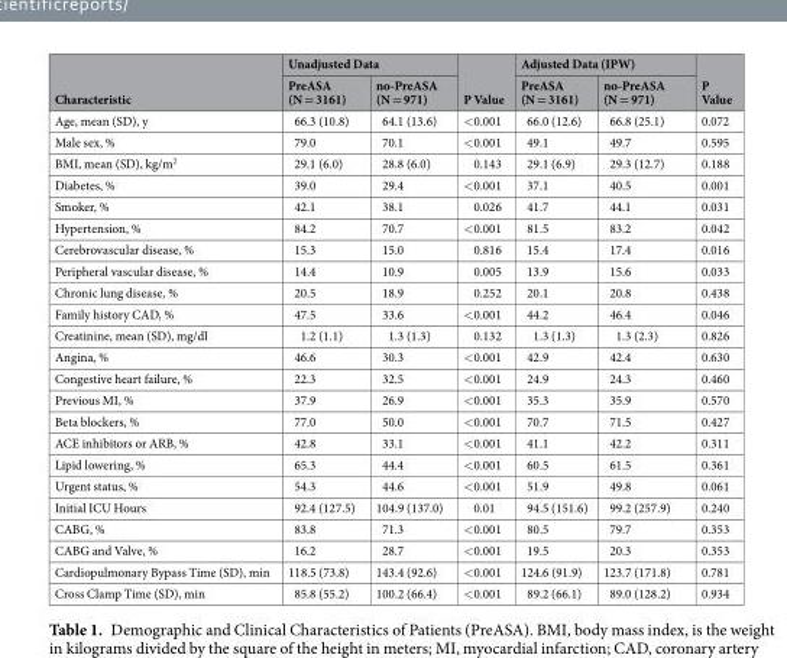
<table><thead><tr><td rowspan="2">Characteristic</td><td colspan="2">Unadjusted Data</td><td rowspan="2">P Value</td><td colspan="2">Adjusted Data (IPW)</td><td rowspan="2">P Value</td></tr><tr><td>PreASA (N = 3161)</td><td>no-PreASA (N = 971)</td><td>PreASA (N = 3161)</td><td>no-PreASA (N = 971)</td></tr></thead><tbody><tr><td>Age, mean (SD), y</td><td>66.3 (10.8)</td><td>64.1 (13.6)</td><td>&lt;0.001</td><td>66.0 (12.6)</td><td>66.8 (25.1)</td><td>0.072</td></tr><tr><td>Male sex, %</td><td>79.0</td><td>70.1</td><td>&lt;0.001</td><td>49.1</td><td>49.7</td><td>0.595</td></tr><tr><td>BMI, mean (SD), kg/m<sup>2</sup></td><td>29.1 (6.0)</td><td>28.8 (6.0)</td><td>0.143</td><td>29.1 (6.9)</td><td>29.3 (12.7)</td><td>0.188</td></tr><tr><td>Diabetes, %</td><td>39.0</td><td>29.4</td><td>&lt;0.001</td><td>37.1</td><td>40.5</td><td>0.001</td></tr><tr><td>Smoker, %</td><td>42.1</td><td>38.1</td><td>0.026</td><td>41.7</td><td>44.1</td><td>0.031</td></tr><tr><td>Hypertension, %</td><td>84.2</td><td>70.7</td><td>&lt;0.001</td><td>81.5</td><td>83.2</td><td>0.042</td></tr><tr><td>Cerebrovascular disease, %</td><td>15.3</td><td>15.0</td><td>0.816</td><td>15.4</td><td>17.4</td><td>0.016</td></tr><tr><td>Peripheral vascular disease, %</td><td>14.4</td><td>10.9</td><td>0.005</td><td>13.9</td><td>15.6</td><td>0.033</td></tr><tr><td>Chronic lung disease, %</td><td>20.5</td><td>18.9</td><td>0.252</td><td>20.1</td><td>20.8</td><td>0.438</td></tr><tr><td>Family history CAD, %</td><td>47.5</td><td>33.6</td><td>&lt;0.001</td><td>44.2</td><td>46.4</td><td>0.046</td></tr><tr><td>Creatinine, mean (SD), mg/dl</td><td>1.2 (1.1)</td><td>1.3 (1.3)</td><td>0.132</td><td>1.3 (1.3)</td><td>1.3 (2.3)</td><td>0.826</td></tr><tr><td>Angina, %</td><td>46.6</td><td>30.3</td><td>&lt;0.001</td><td>42.9</td><td>42.4</td><td>0.630</td></tr><tr><td>Congestive heart failure, %</td><td>22.3</td><td>32.5</td><td>&lt;0.001</td><td>24.9</td><td>24.3</td><td>0.460</td></tr><tr><td>Previous MI, %</td><td>37.9</td><td>26.9</td><td>&lt;0.001</td><td>35.3</td><td>35.9</td><td>0.570</td></tr><tr><td>Beta blockers, %</td><td>77.0</td><td>50.0</td><td>&lt;0.001</td><td>70.7</td><td>71.5</td><td>0.427</td></tr><tr><td>ACE inhibitors or ARB, %</td><td>42.8</td><td>33.1</td><td>&lt;0.001</td><td>41.1</td><td>42.2</td><td>0.311</td></tr><tr><td>Lipid lowering, %</td><td>65.3</td><td>44.4</td><td>&lt;0.001</td><td>60.5</td><td>61.5</td><td>0.361</td></tr><tr><td>Urgent status, %</td><td>54.3</td><td>44.6</td><td>&lt;0.001</td><td>51.9</td><td>49.8</td><td>0.061</td></tr><tr><td>Initial ICU Hours</td><td>92.4 (127.5)</td><td>104.9 (137.0)</td><td>0.01</td><td>94.5 (151.6)</td><td>99.2 (257.9)</td><td>0.240</td></tr><tr><td>CABG, %</td><td>83.8</td><td>71.3</td><td>&lt;0.001</td><td>80.5</td><td>79.7</td><td>0.353</td></tr><tr><td>CABG and Valve, %</td><td>16.2</td><td>28.7</td><td>&lt;0.001</td><td>19.5</td><td>20.3</td><td>0.353</td></tr><tr><td>Cardiopulmonary Bypass Time (SD), min</td><td>118.5 (73.8)</td><td>143.4 (92.6)</td><td>&lt;0.001</td><td>124.6 (91.9)</td><td>123.7 (171.8)</td><td>0.781</td></tr><tr><td>Cross Clamp Time (SD), min</td><td>85.8 (55.2)</td><td>100.2 (66.4)</td><td>&lt;0.001</td><td>89.2 (66.1)</td><td>89.0 (128.2)</td><td>0.934</td></tr></tbody></table>